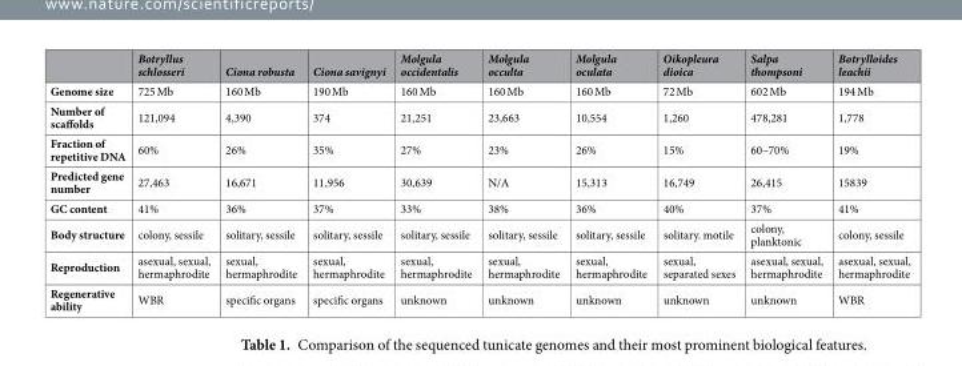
<table><thead><tr><td></td><td>Botryllus schlosseri</td><td>Ciona robusta</td><td>Ciona savignyi</td><td>Molgula occidentalis</td><td>Molgula occulta</td><td>Molgula oculata</td><td>Oikopleura dioica</td><td>Salpa thompsoni</td><td>Botrylloides leachii</td></tr></thead><tbody><tr><td>Genome size</td><td>725 Mb</td><td>160 Mb</td><td>190 Mb</td><td>160 Mb</td><td>160 Mb</td><td>160 Mb</td><td>72 Mb</td><td>602 Mb</td><td>194 Mb</td></tr><tr><td>Number of scaffolds</td><td>121,094</td><td>4,390</td><td>374</td><td>21,251</td><td>23,663</td><td>10,554</td><td>1,260</td><td>478,281</td><td>1,778</td></tr><tr><td>Fraction of repetitive DNA</td><td>60%</td><td>26%</td><td>35%</td><td>27%</td><td>23%</td><td>26%</td><td>15%</td><td>60–70%</td><td>19%</td></tr><tr><td>Predicted gene number</td><td>27,463</td><td>16,671</td><td>11,956</td><td>30,639</td><td>N/A</td><td>15,313</td><td>16,749</td><td>26,415</td><td>15839</td></tr><tr><td>GC content</td><td>41%</td><td>36%</td><td>37%</td><td>33%</td><td>38%</td><td>36%</td><td>40%</td><td>37%</td><td>41%</td></tr><tr><td>Body structure</td><td>colony, sessile</td><td>solitary, sessile</td><td>solitary, sessile</td><td>solitary, sessile</td><td>solitary, sessile</td><td>solitary, sessile</td><td>solitary. motile</td><td>colony, planktonic</td><td>colony, sessile</td></tr><tr><td>Reproduction</td><td>asexual, sexual, hermaphrodite</td><td>sexual, hermaphrodite</td><td>sexual, hermaphrodite</td><td>sexual, hermaphrodite</td><td>sexual, hermaphrodite</td><td>sexual, hermaphrodite</td><td>sexual, separated sexes</td><td>asexual, sexual, hermaphrodite</td><td>asexual, sexual, hermaphrodite</td></tr><tr><td>Regenerative ability</td><td>WBR</td><td>specific organs</td><td>specific organs</td><td>unknown</td><td>unknown</td><td>unknown</td><td>unknown</td><td>unknown</td><td>WBR</td></tr></tbody></table>